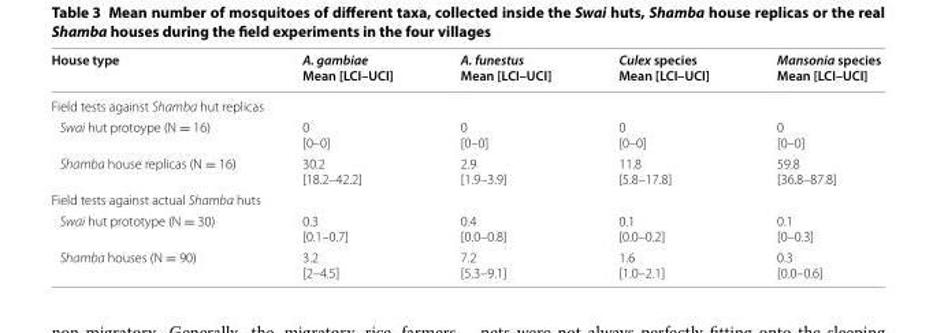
<table><thead><tr><td>House type</td><td>A. gambiae Mean [LCI–UCI]</td><td>A. funestus Mean [LCI–UCI]</td><td>Culex species Mean [LCI–UCI]</td><td>Mansonia species Mean [LCI–UCI]</td></tr></thead><tbody><tr><td colspan="5">Field tests against Shamba hut replicas</td></tr><tr><td>Swai hut protoype (N = 16)</td><td>0 [0–0]</td><td>0 [0–0]</td><td>0 [0–0]</td><td>0 [0–0]</td></tr><tr><td>Shamba house replicas (N = 16)</td><td>30.2 [18.2–42.2]</td><td>2.9 [1.9–3.9]</td><td>11.8 [5.8–17.8]</td><td>59.8 [36.8–87.8]</td></tr><tr><td colspan="5">Field tests against actual Shamba huts</td></tr><tr><td>Swai hut prototype (N = 30)</td><td>0.3 [0.1–0.7]</td><td>0.4 [0.0–0.8]</td><td>0.1 [0.0–0.2]</td><td>0.1 [0–0.3]</td></tr><tr><td>Shamba houses (N = 90)</td><td>3.2 [2–4.5]</td><td>7.2 [5.3–9.1]</td><td>1.6 [1.0–2.1]</td><td>0.3 [0.0–0.6]</td></tr></tbody></table>